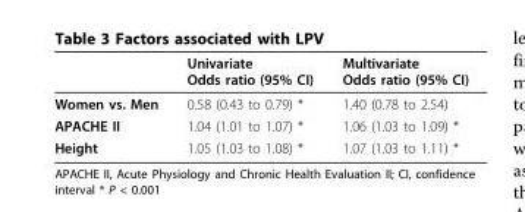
<table><thead><tr><td></td><td>Univariate Odds ratio (95% CI)</td><td>Multivariate Odds ratio (95% CI)</td></tr></thead><tbody><tr><td>Women vs. Men</td><td>0.58 (0.43 to 0.79) *</td><td>1.40 (0.78 to 2.54)</td></tr><tr><td>APACHE II</td><td>1.04 (1.01 to 1.07) *</td><td>1.06 (1.03 to 1.09) *</td></tr><tr><td>Height</td><td>1.05 (1.03 to 1.08) *</td><td>1.07 (1.03 to 1.11) *</td></tr></tbody></table>